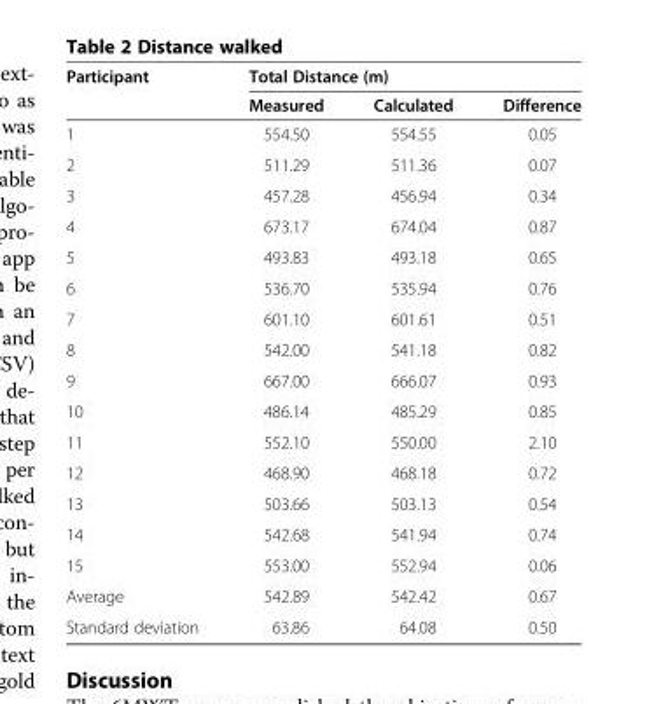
<table><thead><tr><td rowspan="2">Participant</td><td colspan="3">Total Distance (m)</td></tr><tr><td>Measured</td><td>Calculated</td><td>Difference</td></tr></thead><tbody><tr><td>1</td><td>554.50</td><td>554.55</td><td>0.05</td></tr><tr><td>2</td><td>511.29</td><td>511.36</td><td>0.07</td></tr><tr><td>3</td><td>457.28</td><td>456.94</td><td>0.34</td></tr><tr><td>4</td><td>673.17</td><td>674.04</td><td>0.87</td></tr><tr><td>5</td><td>493.83</td><td>493.18</td><td>0.65</td></tr><tr><td>6</td><td>536.70</td><td>535.94</td><td>0.76</td></tr><tr><td>7</td><td>601.10</td><td>601.61</td><td>0.51</td></tr><tr><td>8</td><td>542.00</td><td>541.18</td><td>0.82</td></tr><tr><td>9</td><td>667.00</td><td>666.07</td><td>0.93</td></tr><tr><td>10</td><td>486.14</td><td>485.29</td><td>0.85</td></tr><tr><td>11</td><td>552.10</td><td>550.00</td><td>2.10</td></tr><tr><td>12</td><td>468.90</td><td>468.18</td><td>0.72</td></tr><tr><td>13</td><td>503.66</td><td>503.13</td><td>0.54</td></tr><tr><td>14</td><td>542.68</td><td>541.94</td><td>0.74</td></tr><tr><td>15</td><td>553.00</td><td>552.94</td><td>0.06</td></tr><tr><td>Average</td><td>542.89</td><td>542.42</td><td>0.67</td></tr><tr><td>Standard deviation</td><td>63.86</td><td>64.08</td><td>0.50</td></tr></tbody></table>